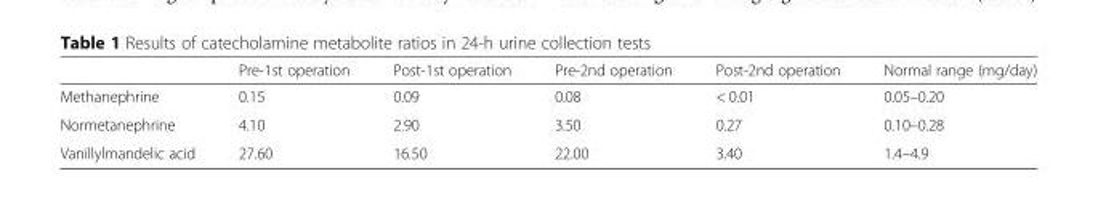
<table><thead><tr><td></td><td>Pre-1st operation</td><td>Post-1st operation</td><td>Pre-2nd operation</td><td>Post-2nd operation</td><td>Normal range (mg/day)</td></tr></thead><tbody><tr><td>Methanephrine</td><td>0.15</td><td>0.09</td><td>0.08</td><td>&lt; 0.01</td><td>0.05–0.20</td></tr><tr><td>Normetanephrine</td><td>4.10</td><td>2.90</td><td>3.50</td><td>0.27</td><td>0.10–0.28</td></tr><tr><td>Vanillylmandelic acid</td><td>27.60</td><td>16.50</td><td>22.00</td><td>3.40</td><td>1.4–4.9</td></tr></tbody></table>